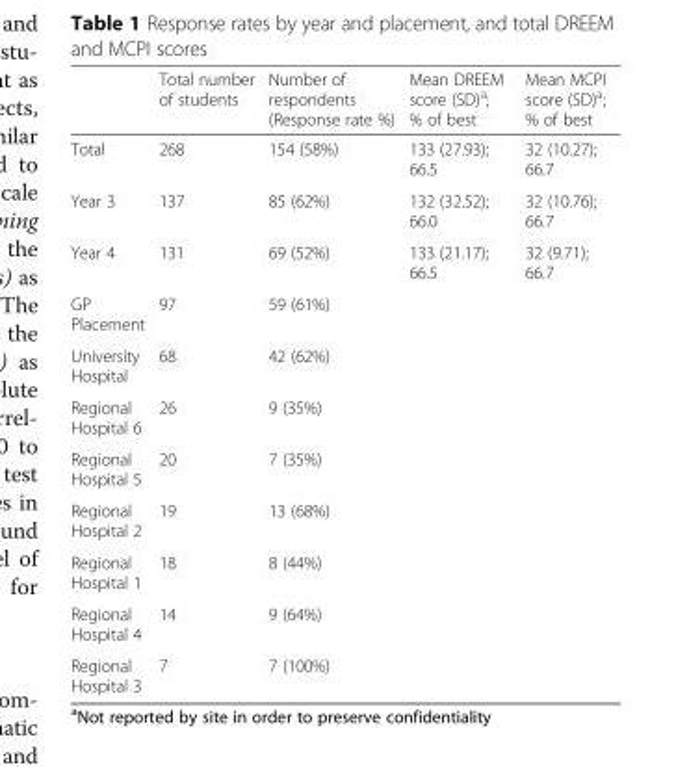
<table><thead><tr><td></td><td>Total number of students</td><td>Number of respondents (Response rate %)</td><td>Mean DREEM score (SD)<sup>a</sup>; % of best</td><td>Mean MCPI score (SD)<sup>a</sup>; % of best</td></tr></thead><tbody><tr><td>Total</td><td>268</td><td>154 (58%)</td><td>133 (27.93); 66.5</td><td>32 (10.27); 66.7</td></tr><tr><td>Year 3</td><td>137</td><td>85 (62%)</td><td>132 (32.52); 66.0</td><td>32 (10.76); 66.7</td></tr><tr><td>Year 4</td><td>131</td><td>69 (52%)</td><td>133 (21.17); 66.5</td><td>32 (9.71); 66.7</td></tr><tr><td>GP Placement</td><td>97</td><td>59 (61%)</td><td rowspan="8"></td><td rowspan="8"></td></tr><tr><td>University Hospital</td><td>68</td><td>42 (62%)</td></tr><tr><td>Regional Hospital 6</td><td>26</td><td>9 (35%)</td></tr><tr><td>Regional Hospital 5</td><td>20</td><td>7 (35%)</td></tr><tr><td>Regional Hospital 2</td><td>19</td><td>13 (68%)</td></tr><tr><td>Regional Hospital 1</td><td>18</td><td>8 (44%)</td></tr><tr><td>Regional Hospital 4</td><td>14</td><td>9 (64%)</td></tr><tr><td>Regional Hospital 3</td><td>7</td><td>7 (100%)</td></tr></tbody></table>